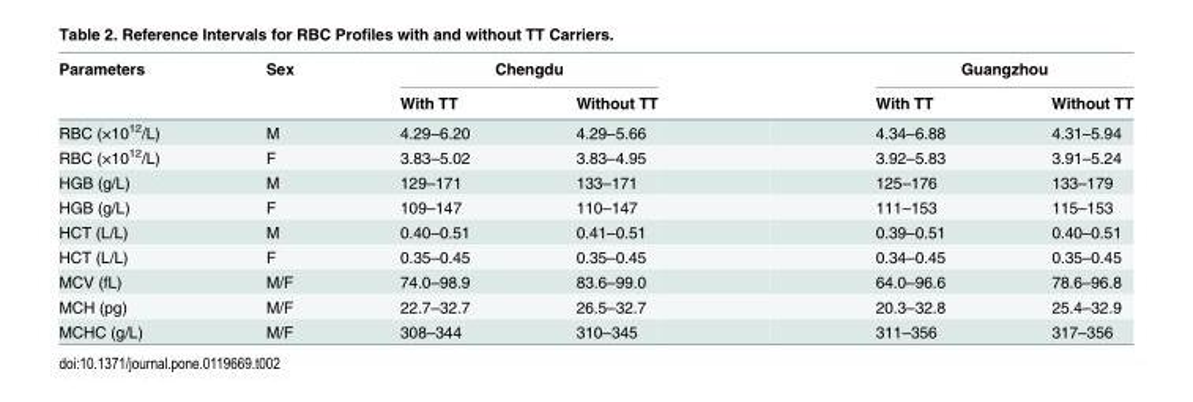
<table><thead><tr><td rowspan="2">Parameters</td><td rowspan="2">Sex</td><td colspan="2">Chengdu</td><td colspan="2">Guangzhou</td></tr><tr><td>With TT</td><td>Without TT</td><td>With TT</td><td>Without TT</td></tr></thead><tbody><tr><td>RBC (×10<sup>12</sup>/L)</td><td>M</td><td>4.29–6.20</td><td>4.29–5.66</td><td>4.34–6.88</td><td>4.31–5.94</td></tr><tr><td>RBC (×10<sup>12</sup>/L)</td><td>F</td><td>3.83–5.02</td><td>3.83–4.95</td><td>3.92–5.83</td><td>3.91–5.24</td></tr><tr><td>HGB (g/L)</td><td>M</td><td>129–171</td><td>133–171</td><td>125–176</td><td>133–179</td></tr><tr><td>HGB (g/L)</td><td>F</td><td>109–147</td><td>110–147</td><td>111–153</td><td>115–153</td></tr><tr><td>HCT (L/L)</td><td>M</td><td>0.40–0.51</td><td>0.41–0.51</td><td>0.39–0.51</td><td>0.40–0.51</td></tr><tr><td>HCT (L/L)</td><td>F</td><td>0.35–0.45</td><td>0.35–0.45</td><td>0.34–0.45</td><td>0.35–0.45</td></tr><tr><td>MCV (fL)</td><td>M/F</td><td>74.0–98.9</td><td>83.6–99.0</td><td>64.0–96.6</td><td>78.6–96.8</td></tr><tr><td>MCH (pg)</td><td>M/F</td><td>22.7–32.7</td><td>26.5–32.7</td><td>20.3–32.8</td><td>25.4–32.9</td></tr><tr><td>MCHC (g/L)</td><td>M/F</td><td>308–344</td><td>310–345</td><td>311–356</td><td>317–356</td></tr></tbody></table>